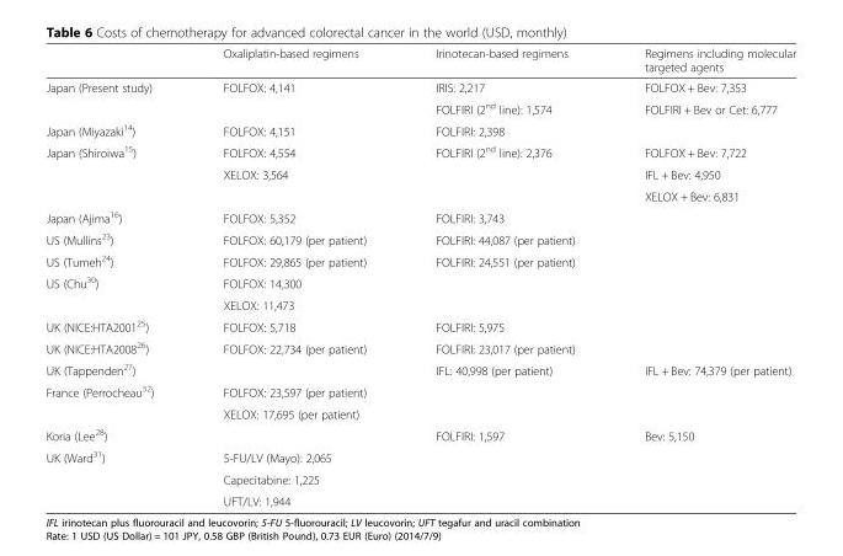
<table><thead><tr><td></td><td>Oxaliplatin-based regimens</td><td>Irinotecan-based regimens</td><td>Regimens including molecular targeted agents</td></tr></thead><tbody><tr><td rowspan="2">Japan (Present study)</td><td rowspan="2">FOLFOX: 4,141</td><td>IRIS: 2,217</td><td>FOLFOX + Bev: 7,353</td></tr><tr><td>FOLFIRI (2<sup>nd</sup> line): 1,574</td><td>FOLFIRI + Bev or Cet: 6,777</td></tr><tr><td>Japan (Miyazaki<sup>14</sup>)</td><td>FOLFOX: 4,151</td><td>FOLFIRI: 2,398</td><td></td></tr><tr><td rowspan="3">Japan (Shiroiwa<sup>15</sup>)</td><td>FOLFOX: 4,554</td><td rowspan="3">FOLFIRI (2<sup>nd</sup> line): 2,376</td><td>FOLFOX + Bev: 7,722</td></tr><tr><td rowspan="2">XELOX: 3,564</td><td>IFL + Bev: 4,950</td></tr><tr><td>XELOX + Bev: 6,831</td></tr><tr><td>Japan (Ajima<sup>16</sup>)</td><td>FOLFOX: 5,352</td><td>FOLFIRI: 3,743</td><td></td></tr><tr><td>US (Mullins<sup>23</sup>)</td><td>FOLFOX: 60,179 (per patient)</td><td>FOLFIRI: 44,087 (per patient)</td><td></td></tr><tr><td>US (Tumeh<sup>24</sup>)</td><td>FOLFOX: 29,865 (per patient)</td><td>FOLFIRI: 24,551 (per patient)</td><td></td></tr><tr><td rowspan="2">US (Chu<sup>30</sup>)</td><td>FOLFOX: 14,300</td><td rowspan="2"></td><td rowspan="2"></td></tr><tr><td>XELOX: 11,473</td></tr><tr><td>UK (NICE:HTA2001<sup>25</sup>)</td><td>FOLFOX: 5,718</td><td>FOLFIRI: 5,975</td><td></td></tr><tr><td>UK (NICE:HTA2008<sup>26</sup>)</td><td>FOLFOX: 22,734 (per patient)</td><td>FOLFIRI: 23,017 (per patient)</td><td></td></tr><tr><td>UK (Tappenden<sup>27</sup>)</td><td></td><td>IFL: 40,998 (per patient)</td><td>IFL + Bev: 74,379 (per patient)</td></tr><tr><td rowspan="2">France (Perrocheau<sup>32</sup>)</td><td>FOLFOX: 23,597 (per patient)</td><td rowspan="2"></td><td rowspan="2"></td></tr><tr><td>XELOX: 17,695 (per patient)</td></tr><tr><td>Koria (Lee<sup>28</sup>)</td><td></td><td>FOLFIRI: 1,597</td><td>Bev: 5,150</td></tr><tr><td rowspan="3">UK (Ward<sup>31</sup>)</td><td colspan="3">5-FU/LV (Mayo): 2,065</td></tr><tr><td colspan="3">Capecitabine: 1,225</td></tr><tr><td colspan="3">UFT/LV: 1,944</td></tr></tbody></table>